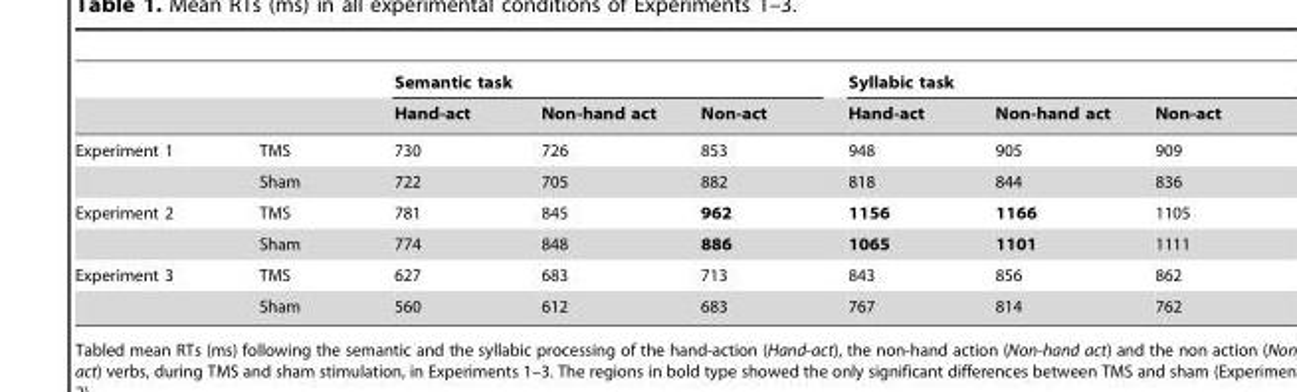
<table><thead><tr><td rowspan="2"></td><td rowspan="2"></td><td rowspan="2">Semantic task Hand-act</td><td rowspan="2">Non-hand act</td><td rowspan="2">Non-act</td><td rowspan="2">Syllabic task Hand-act</td><td rowspan="2">Non-hand act</td><td rowspan="2">Non-act</td></tr><tr></tr></thead><tbody><tr><td rowspan="2">Experiment 1</td><td>TMS</td><td>730</td><td>726</td><td>853</td><td>948</td><td>905</td><td>909</td></tr><tr><td>Sham</td><td>722</td><td>705</td><td>882</td><td>818</td><td>844</td><td>836</td></tr><tr><td rowspan="2">Experiment 2</td><td>TMS</td><td>781</td><td>845</td><td>962</td><td>1156</td><td>1166</td><td>1105</td></tr><tr><td>Sham</td><td>774</td><td>848</td><td>886</td><td>1065</td><td>1101</td><td>1111</td></tr><tr><td rowspan="2">Experiment 3</td><td>TMS</td><td>627</td><td>683</td><td>713</td><td>843</td><td>856</td><td>862</td></tr><tr><td>Sham</td><td>560</td><td>612</td><td>683</td><td>767</td><td>814</td><td>762</td></tr></tbody></table>